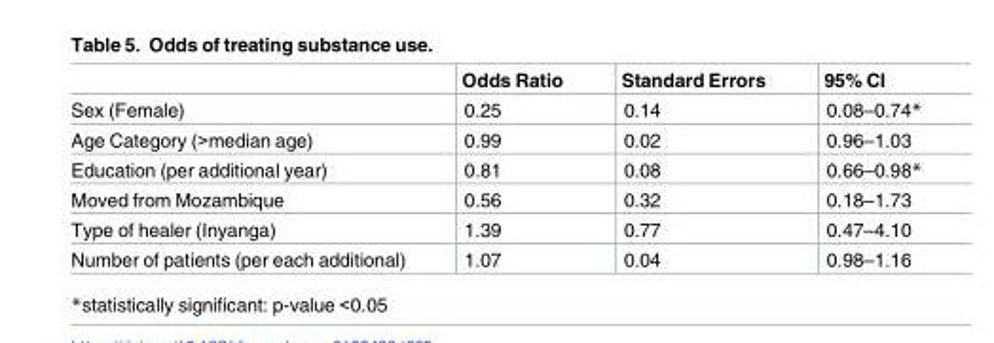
<table><thead><tr><td></td><td>Odds Ratio</td><td>Standard Errors</td><td>95% CI</td></tr></thead><tbody><tr><td>Sex (Female)</td><td>0.25</td><td>0.14</td><td>0.08–0.74*</td></tr><tr><td>Age Category (&gt;median age)</td><td>0.99</td><td>0.02</td><td>0.96–1.03</td></tr><tr><td>Education (per additional year)</td><td>0.81</td><td>0.08</td><td>0.66–0.98*</td></tr><tr><td>Moved from Mozambique</td><td>0.56</td><td>0.32</td><td>0.18–1.73</td></tr><tr><td>Type of healer (Inyanga)</td><td>1.39</td><td>0.77</td><td>0.47–4.10</td></tr><tr><td>Number of patients (per each additional)</td><td>1.07</td><td>0.04</td><td>0.98–1.16</td></tr></tbody></table>